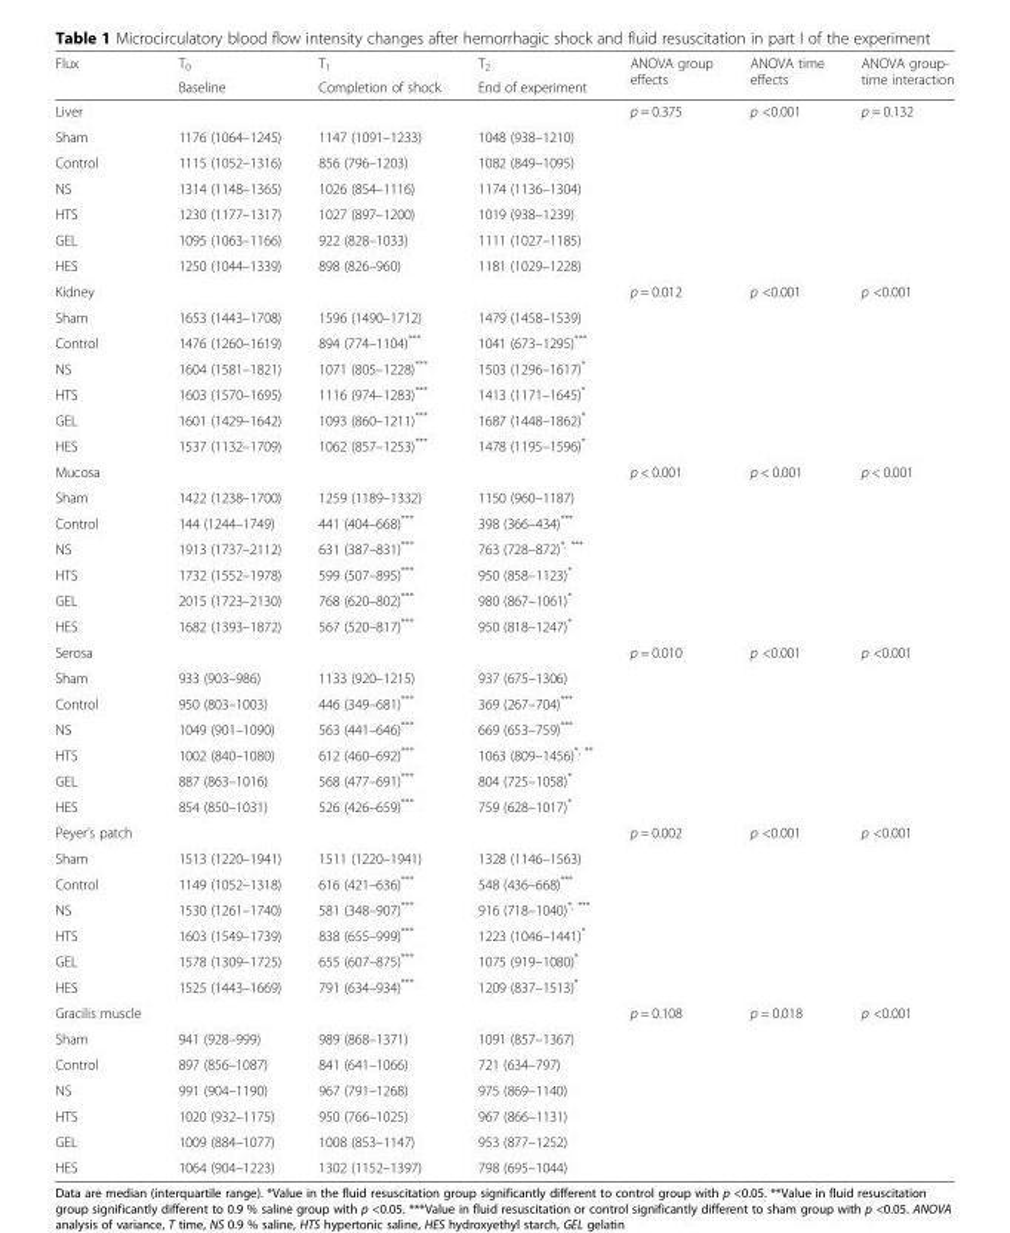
<table><thead><tr><td rowspan="2">Flux</td><td rowspan="2">T<sub>0</sub> Baseline</td><td rowspan="2">T<sub>1</sub> Completion of shock</td><td rowspan="2">T<sub>2</sub> End of experiment</td><td rowspan="2">ANOVA group effects</td><td rowspan="2">ANOVA time effects</td><td rowspan="2">ANOVA group- time interaction</td></tr><tr></tr></thead><tbody><tr><td colspan="4">Liver</td><td rowspan="7">p = 0.375</td><td rowspan="7">p &lt;0.001</td><td rowspan="7">p = 0.132</td></tr><tr><td>Sham</td><td>1176 (1064–1245)</td><td>1147 (1091–1233)</td><td>1048 (938–1210)</td></tr><tr><td>Control</td><td>1115 (1052–1316)</td><td>856 (796–1203)</td><td>1082 (849–1095)</td></tr><tr><td>NS</td><td>1314 (1148–1365)</td><td>1026 (854–1116)</td><td>1174 (1136–1304)</td></tr><tr><td>HTS</td><td>1230 (1177–1317)</td><td>1027 (897–1200)</td><td>1019 (938–1239)</td></tr><tr><td>GEL</td><td>1095 (1063–1166)</td><td>922 (828–1033)</td><td>1111 (1027–1185)</td></tr><tr><td>HES</td><td>1250 (1044–1339)</td><td>898 (826–960)</td><td>1181 (1029–1228)</td></tr><tr><td colspan="4">Kidney</td><td rowspan="7">p = 0.012</td><td rowspan="7">p &lt;0.001</td><td rowspan="7">p &lt;0.001</td></tr><tr><td>Sham</td><td>1653 (1443–1708)</td><td>1596 (1490–1712)</td><td>1479 (1458–1539)</td></tr><tr><td>Control</td><td>1476 (1260–1619)</td><td>894 (774–1104)***</td><td>1041 (673–1295)***</td></tr><tr><td>NS</td><td>1604 (1581–1821)</td><td>1071 (805–1228)***</td><td>1503 (1296–1617)*</td></tr><tr><td>HTS</td><td>1603 (1570–1695)</td><td>1116 (974–1283)***</td><td>1413 (1171–1645)*</td></tr><tr><td>GEL</td><td>1601 (1429–1642)</td><td>1093 (860–1211)***</td><td>1687 (1448–1862)*</td></tr><tr><td>HES</td><td>1537 (1132–1709)</td><td>1062 (857–1253)***</td><td>1478 (1195–1596)*</td></tr><tr><td colspan="4">Mucosa</td><td rowspan="7">p &lt; 0.001</td><td rowspan="7">p &lt; 0.001</td><td rowspan="7">p &lt; 0.001</td></tr><tr><td>Sham</td><td>1422 (1238–1700)</td><td>1259 (1189–1332)</td><td>1150 (960–1187)</td></tr><tr><td>Control</td><td>144 (1244–1749)</td><td>441 (404–668)***</td><td>398 (366–434)***</td></tr><tr><td>NS</td><td>1913 (1737–2112)</td><td>631 (387–831)***</td><td>763 (728–872)<sup>*, ***</sup></td></tr><tr><td>HTS</td><td>1732 (1552–1978)</td><td>599 (507–895)***</td><td>950 (858–1123)*</td></tr><tr><td>GEL</td><td>2015 (1723–2130)</td><td>768 (620–802)***</td><td>980 (867–1061)*</td></tr><tr><td>HES</td><td>1682 (1393–1872)</td><td>567 (520–817)***</td><td>950 (818–1247)*</td></tr><tr><td colspan="4">Serosa</td><td rowspan="7">p = 0.010</td><td rowspan="7">p &lt;0.001</td><td rowspan="7">p &lt;0.001</td></tr><tr><td>Sham</td><td>933 (903–986)</td><td>1133 (920–1215)</td><td>937 (675–1306)</td></tr><tr><td>Control</td><td>950 (803–1003)</td><td>446 (349–681)***</td><td>369 (267–704)***</td></tr><tr><td>NS</td><td>1049 (901–1090)</td><td>563 (441–646)***</td><td>669 (653–759)***</td></tr><tr><td>HTS</td><td>1002 (840–1080)</td><td>612 (460–692)***</td><td>1063 (809–1456)<sup>*, **</sup></td></tr><tr><td>GEL</td><td>887 (863–1016)</td><td>568 (477–691)***</td><td>804 (725–1058)*</td></tr><tr><td>HES</td><td>854 (850–1031)</td><td>526 (426–659)***</td><td>759 (628–1017)*</td></tr><tr><td colspan="4">Peyer’s patch</td><td rowspan="7">p = 0.002</td><td rowspan="7">p &lt;0.001</td><td rowspan="7">p &lt;0.001</td></tr><tr><td>Sham</td><td>1513 (1220–1941)</td><td>1511 (1220–1941)</td><td>1328 (1146–1563)</td></tr><tr><td>Control</td><td>1149 (1052–1318)</td><td>616 (421–636)***</td><td>548 (436–668)***</td></tr><tr><td>NS</td><td>1530 (1261–1740)</td><td>581 (348–907)***</td><td>916 (718–1040)<sup>*, ***</sup></td></tr><tr><td>HTS</td><td>1603 (1549–1739)</td><td>838 (655–999)***</td><td>1223 (1046–1441)*</td></tr><tr><td>GEL</td><td>1578 (1309–1725)</td><td>655 (607–875)***</td><td>1075 (919–1080)*</td></tr><tr><td>HES</td><td>1525 (1443–1669)</td><td>791 (634–934)***</td><td>1209 (837–1513)*</td></tr><tr><td colspan="4">Gracilis muscle</td><td rowspan="7">p = 0.108</td><td rowspan="7">p = 0.018</td><td rowspan="7">p &lt;0.001</td></tr><tr><td>Sham</td><td>941 (928–999)</td><td>989 (868–1371)</td><td>1091 (857–1367)</td></tr><tr><td>Control</td><td>897 (856–1087)</td><td>841 (641–1066)</td><td>721 (634–797)</td></tr><tr><td>NS</td><td>991 (904–1190)</td><td>967 (791–1268)</td><td>975 (869–1140)</td></tr><tr><td>HTS</td><td>1020 (932–1175)</td><td>950 (766–1025)</td><td>967 (866–1131)</td></tr><tr><td>GEL</td><td>1009 (884–1077)</td><td>1008 (853–1147)</td><td>953 (877–1252)</td></tr><tr><td>HES</td><td>1064 (904–1223)</td><td>1302 (1152–1397)</td><td>798 (695–1044)</td></tr></tbody></table>